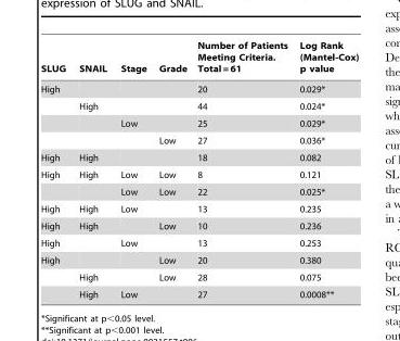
<table><thead><tr><td>SLUG</td><td>SNAIL</td><td>Stage</td><td>Grade</td><td>Number of Patients Meeting Criteria. Total = 61</td><td>Log Rank (Mantel-Cox) p value</td></tr></thead><tbody><tr><td rowspan="4">High</td><td></td><td></td><td></td><td>20</td><td>0.029*</td></tr><tr><td>High</td><td></td><td></td><td>44</td><td>0.024*</td></tr><tr><td></td><td>Low</td><td></td><td>25</td><td>0.029*</td></tr><tr><td></td><td></td><td>Low</td><td>27</td><td>0.036*</td></tr><tr><td>High</td><td>High</td><td></td><td></td><td>18</td><td>0.082</td></tr><tr><td rowspan="2">High</td><td>High</td><td>Low</td><td>Low</td><td>8</td><td>0.121</td></tr><tr><td></td><td>Low</td><td>Low</td><td>22</td><td>0.025*</td></tr><tr><td>High</td><td>High</td><td>Low</td><td></td><td>13</td><td>0.235</td></tr><tr><td>High</td><td>High</td><td></td><td>Low</td><td>10</td><td>0.236</td></tr><tr><td>High</td><td></td><td>Low</td><td></td><td>13</td><td>0.253</td></tr><tr><td rowspan="3">High</td><td></td><td></td><td>Low</td><td>20</td><td>0.380</td></tr><tr><td>High</td><td></td><td>Low</td><td>28</td><td>0.075</td></tr><tr><td>High</td><td>Low</td><td></td><td>27</td><td>0.0008**</td></tr></tbody></table>